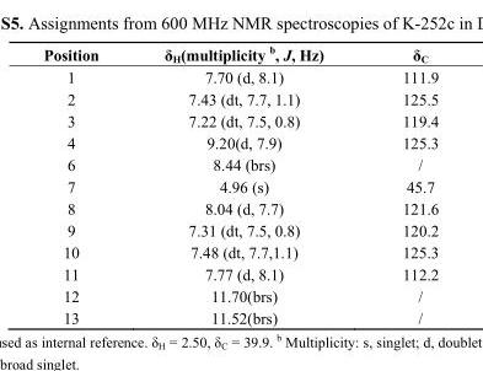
<table><thead><tr><td>Position</td><td>δ<sub>H</sub>(multiplicity <sup>b</sup>, J, Hz)</td><td>δ<sub>C</sub></td></tr></thead><tbody><tr><td>1</td><td>7.70 (d, 8.1)</td><td>111.9</td></tr><tr><td>2</td><td>7.43 (dt, 7.7, 1.1)</td><td>125.5</td></tr><tr><td>3</td><td>7.22 (dt, 7.5, 0.8)</td><td>119.4</td></tr><tr><td>4</td><td>9.20(d, 7.9)</td><td>125.3</td></tr><tr><td>6</td><td>8.44 (brs)</td><td>/</td></tr><tr><td>7</td><td>4.96 (s)</td><td>45.7</td></tr><tr><td>8</td><td>8.04 (d, 7.7)</td><td>121.6</td></tr><tr><td>9</td><td>7.31 (dt, 7.5, 0.8)</td><td>120.2</td></tr><tr><td>10</td><td>7.48 (dt, 7.7,1.1)</td><td>125.3</td></tr><tr><td>11</td><td>7.77 (d, 8.1)</td><td>112.2</td></tr><tr><td>12</td><td>11.70(brs)</td><td>/</td></tr><tr><td>13</td><td>11.52(brs)</td><td>/</td></tr></tbody></table>